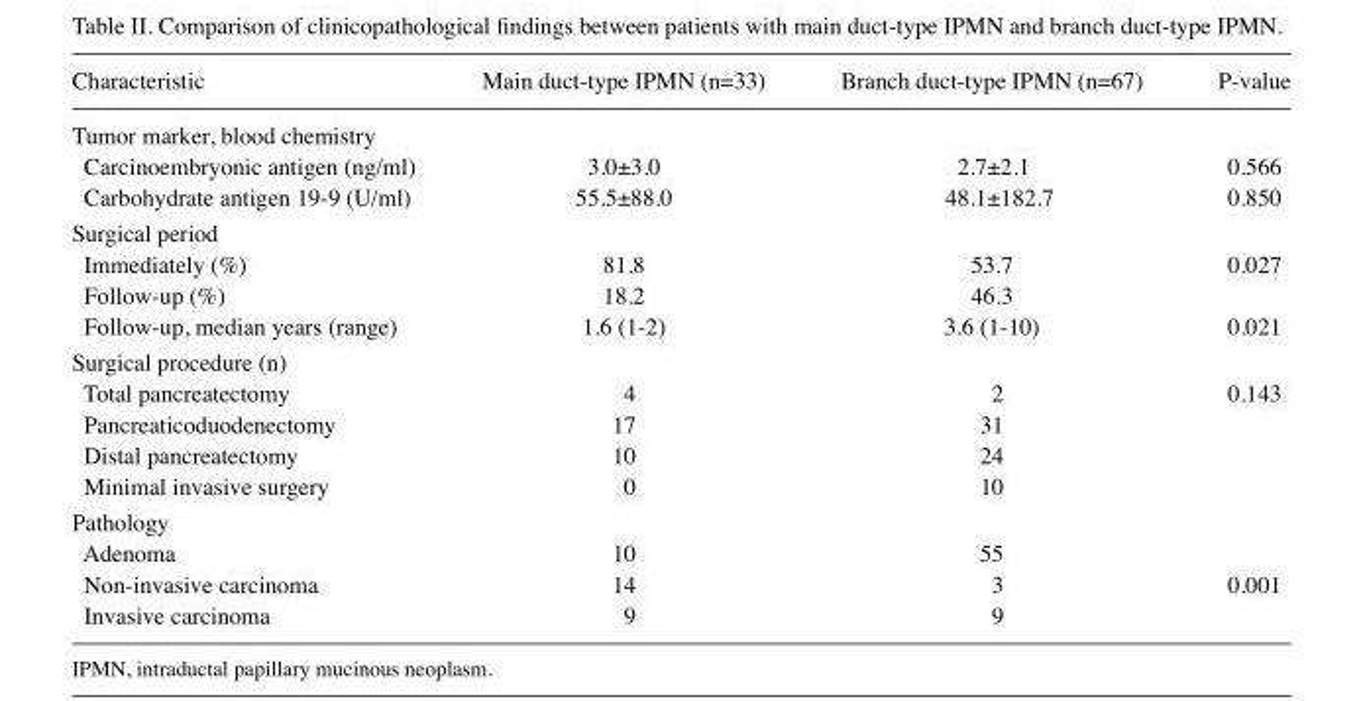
<table><thead><tr><td>Characteristic</td><td>Main duct-type IPMN (n=33)</td><td>Branch duct-type IPMN (n=67)</td><td>P-value</td></tr></thead><tbody><tr><td colspan="4">Tumor marker, blood chemistry</td></tr><tr><td>Carcinoembryonic antigen (ng/ml)</td><td>3.0±3.0</td><td>2.7±2.1</td><td>0.566</td></tr><tr><td>Carbohydrate antigen 19-9 (U/ml)</td><td>55.5±88.0</td><td>48.1±182.7</td><td>0.850</td></tr><tr><td colspan="4">Surgical period</td></tr><tr><td>Immediately (%)</td><td>81.8</td><td>53.7</td><td>0.027</td></tr><tr><td>Follow-up (%)</td><td>18.2</td><td>46.3</td><td></td></tr><tr><td>Follow-up, median years (range)</td><td>1.6 (1-2)</td><td>3.6 (1-10)</td><td>0.021</td></tr><tr><td colspan="4">Surgical procedure (n)</td></tr><tr><td>Total pancreatectomy</td><td>4</td><td>2</td><td>0.143</td></tr><tr><td>Pancreaticoduodenectomy</td><td>17</td><td>31</td><td></td></tr><tr><td>Distal pancreatectomy</td><td>10</td><td>24</td><td></td></tr><tr><td>Minimal invasive surgery</td><td>0</td><td>10</td><td></td></tr><tr><td colspan="4">Pathology</td></tr><tr><td>Adenoma</td><td>10</td><td>55</td><td></td></tr><tr><td>Non-invasive carcinoma</td><td>14</td><td>3</td><td>0.001</td></tr><tr><td>Invasive carcinoma</td><td>9</td><td>9</td><td></td></tr></tbody></table>